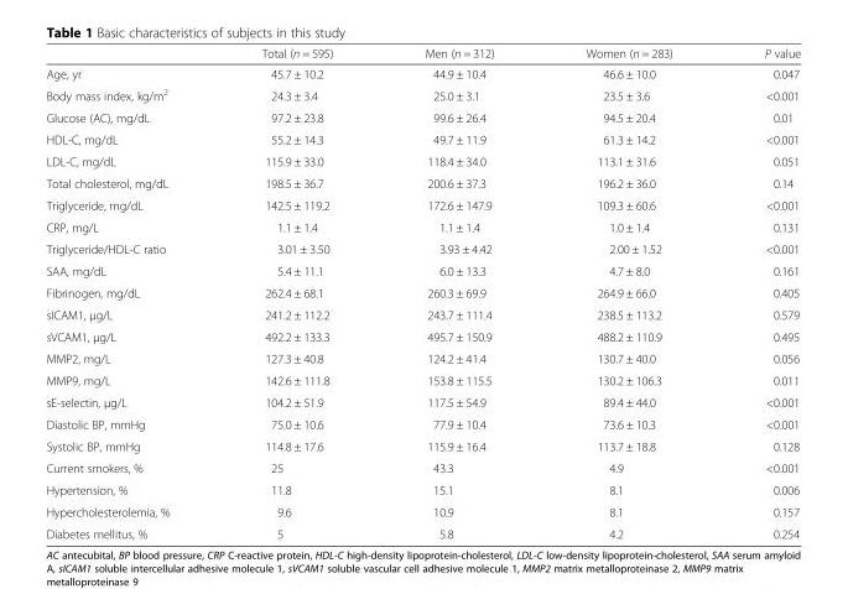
<table><thead><tr><td></td><td>Total (n = 595)</td><td>Men (n = 312)</td><td>Women (n = 283)</td><td>P value</td></tr></thead><tbody><tr><td>Age, yr</td><td>45.7 ± 10.2</td><td>44.9 ± 10.4</td><td>46.6 ± 10.0</td><td>0.047</td></tr><tr><td>Body mass index, kg/m<sup>2</sup></td><td>24.3 ± 3.4</td><td>25.0 ± 3.1</td><td>23.5 ± 3.6</td><td>&lt;0.001</td></tr><tr><td>Glucose (AC), mg/dL</td><td>97.2 ± 23.8</td><td>99.6 ± 26.4</td><td>94.5 ± 20.4</td><td>0.01</td></tr><tr><td>HDL-C, mg/dL</td><td>55.2 ± 14.3</td><td>49.7 ± 11.9</td><td>61.3 ± 14.2</td><td>&lt;0.001</td></tr><tr><td>LDL-C, mg/dL</td><td>115.9 ± 33.0</td><td>118.4 ± 34.0</td><td>113.1 ± 31.6</td><td>0.051</td></tr><tr><td>Total cholesterol, mg/dL</td><td>198.5 ± 36.7</td><td>200.6 ± 37.3</td><td>196.2 ± 36.0</td><td>0.14</td></tr><tr><td>Triglyceride, mg/dL</td><td>142.5 ± 119.2</td><td>172.6 ± 147.9</td><td>109.3 ± 60.6</td><td>&lt;0.001</td></tr><tr><td>CRP, mg/L</td><td>1.1 ± 1.4</td><td>1.1 ± 1.4</td><td>1.0 ± 1.4</td><td>0.131</td></tr><tr><td>Triglyceride/HDL-C ratio</td><td>3.01 ± 3.50</td><td>3.93 ± 4.42</td><td>2.00 ± 1.52</td><td>&lt;0.001</td></tr><tr><td>SAA, mg/dL</td><td>5.4 ± 11.1</td><td>6.0 ± 13.3</td><td>4.7 ± 8.0</td><td>0.161</td></tr><tr><td>Fibrinogen, mg/dL</td><td>262.4 ± 68.1</td><td>260.3 ± 69.9</td><td>264.9 ± 66.0</td><td>0.405</td></tr><tr><td>sICAM1, μg/L</td><td>241.2 ± 112.2</td><td>243.7 ± 111.4</td><td>238.5 ± 113.2</td><td>0.579</td></tr><tr><td>sVCAM1, μg/L</td><td>492.2 ± 133.3</td><td>495.7 ± 150.9</td><td>488.2 ± 110.9</td><td>0.495</td></tr><tr><td>MMP2, mg/L</td><td>127.3 ± 40.8</td><td>124.2 ± 41.4</td><td>130.7 ± 40.0</td><td>0.056</td></tr><tr><td>MMP9, mg/L</td><td>142.6 ± 111.8</td><td>153.8 ± 115.5</td><td>130.2 ± 106.3</td><td>0.011</td></tr><tr><td>sE-selectin, μg/L</td><td>104.2 ± 51.9</td><td>117.5 ± 54.9</td><td>89.4 ± 44.0</td><td>&lt;0.001</td></tr><tr><td>Diastolic BP, mmHg</td><td>75.0 ± 10.6</td><td>77.9 ± 10.4</td><td>73.6 ± 10.3</td><td>&lt;0.001</td></tr><tr><td>Systolic BP, mmHg</td><td>114.8 ± 17.6</td><td>115.9 ± 16.4</td><td>113.7 ± 18.8</td><td>0.128</td></tr><tr><td>Current smokers, %</td><td>25</td><td>43.3</td><td>4.9</td><td>&lt;0.001</td></tr><tr><td>Hypertension, %</td><td>11.8</td><td>15.1</td><td>8.1</td><td>0.006</td></tr><tr><td>Hypercholesterolemia, %</td><td>9.6</td><td>10.9</td><td>8.1</td><td>0.157</td></tr><tr><td>Diabetes mellitus, %</td><td>5</td><td>5.8</td><td>4.2</td><td>0.254</td></tr></tbody></table>